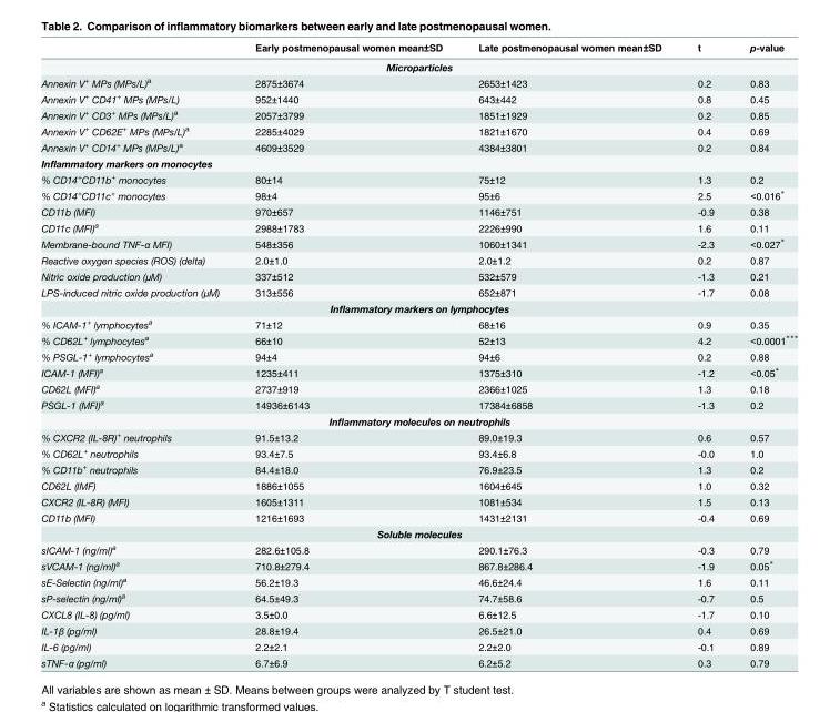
<table><thead><tr><td></td><td>Early postmenopausal women mean±SD</td><td>Late postmenopausal women mean±SD</td><td>t</td><td>p-value</td></tr></thead><tbody><tr><td colspan="5">Microparticles</td></tr><tr><td>Annexin V<sup>+</sup> MPs (MPs/L)<sup>a</sup></td><td>2875±3674</td><td>2653±1423</td><td>0.2</td><td>0.83</td></tr><tr><td>Annexin V<sup>+</sup> CD41<sup>+</sup> MPs (MPs/L)</td><td>952±1440</td><td>643±442</td><td>0.8</td><td>0.45</td></tr><tr><td>Annexin V<sup>+</sup> CD3<sup>+</sup> MPs (MPs/L)<sup>a</sup></td><td>2057±3799</td><td>1851±1929</td><td>0.2</td><td>0.85</td></tr><tr><td>Annexin V<sup>+</sup> CD62E<sup>+</sup> MPs (MPs/L)<sup>a</sup></td><td>2285±4029</td><td>1821±1670</td><td>0.4</td><td>0.69</td></tr><tr><td>Annexin V<sup>+</sup> CD14<sup>+</sup> MPs (MPs/L)<sup>a</sup></td><td>4609±3529</td><td>4384±3801</td><td>0.2</td><td>0.84</td></tr><tr><td colspan="5">Inflammatory markers on monocytes</td></tr><tr><td>% CD14<sup>+</sup>CD11b<sup>+</sup> monocytes</td><td>80±14</td><td>75±12</td><td>1.3</td><td>0.2</td></tr><tr><td>% CD14<sup>+</sup>CD11c<sup>+</sup> monocytes</td><td>98±4</td><td>95±6</td><td>2.5</td><td>&lt;0.016*</td></tr><tr><td>CD11b (MFI)</td><td>970±657</td><td>1146±751</td><td>-0.9</td><td>0.38</td></tr><tr><td>CD11c (MFI)<sup>a</sup></td><td>2988±1783</td><td>2226±990</td><td>1.6</td><td>0.11</td></tr><tr><td>Membrane-bound TNF-α MFI)</td><td>548±356</td><td>1060±1341</td><td>-2.3</td><td>&lt;0.027*</td></tr><tr><td>Reactive oxygen species (ROS) (delta)</td><td>2.0±1.0</td><td>2.0±1.2</td><td>0.2</td><td>0.87</td></tr><tr><td>Nitric oxide production (μM)</td><td>337±512</td><td>532±579</td><td>-1.3</td><td>0.21</td></tr><tr><td>LPS-induced nitric oxide production (μM)</td><td>313±556</td><td>652±871</td><td>-1.7</td><td>0.08</td></tr><tr><td colspan="5">Inflammatory markers on lymphocytes</td></tr><tr><td>% ICAM-1<sup>+</sup> lymphocytes<sup>a</sup></td><td>71±12</td><td>68±16</td><td>0.9</td><td>0.35</td></tr><tr><td>% CD62L<sup>+</sup> lymphocytes<sup>a</sup></td><td>66±10</td><td>52±13</td><td>4.2</td><td>&lt;0.0001***</td></tr><tr><td>% PSGL-1<sup>+</sup> lymphocytes<sup>a</sup></td><td>94±4</td><td>94±6</td><td>0.2</td><td>0.88</td></tr><tr><td>ICAM-1 (MFI)<sup>a</sup></td><td>1235±411</td><td>1375±310</td><td>-1.2</td><td>&lt;0.05*</td></tr><tr><td>CD62L (MFI)<sup>a</sup></td><td>2737±919</td><td>2366±1025</td><td>1.3</td><td>0.18</td></tr><tr><td>PSGL-1 (MFI)<sup>a</sup></td><td>14936±6143</td><td>17384±6858</td><td>-1.3</td><td>0.2</td></tr><tr><td colspan="5">Inflammatory molecules on neutrophils</td></tr><tr><td>% CXCR2 (IL-8R)<sup>+</sup> neutrophils</td><td>91.5±13.2</td><td>89.0±19.3</td><td>0.6</td><td>0.57</td></tr><tr><td>% CD62L<sup>+</sup> neutrophils</td><td>93.4±7.5</td><td>93.4±6.8</td><td>-0.0</td><td>1.0</td></tr><tr><td>% CD11b<sup>+</sup> neutrophils</td><td>84.4±18.0</td><td>76.9±23.5</td><td>1.3</td><td>0.2</td></tr><tr><td>CD62L (IMF)</td><td>1886±1055</td><td>1604±645</td><td>1.0</td><td>0.32</td></tr><tr><td>CXCR2 (IL-8R) (MFI)</td><td>1605±1311</td><td>1081±534</td><td>1.5</td><td>0.13</td></tr><tr><td>CD11b (MFI)</td><td>1216±1693</td><td>1431±2131</td><td>-0.4</td><td>0.69</td></tr><tr><td colspan="5">Soluble molecules</td></tr><tr><td>sICAM-1 (ng/ml)<sup>a</sup></td><td>282.6±105.8</td><td>290.1±76.3</td><td>-0.3</td><td>0.79</td></tr><tr><td>sVCAM-1 (ng/ml)<sup>a</sup></td><td>710.8±279.4</td><td>867.8±286.4</td><td>-1.9</td><td>0.05*</td></tr><tr><td>sE-Selectin (ng/ml)<sup>a</sup></td><td>56.2±19.3</td><td>46.6±24.4</td><td>1.6</td><td>0.11</td></tr><tr><td>sP-selectin (ng/ml)<sup>a</sup></td><td>64.5±49.3</td><td>74.7±58.6</td><td>-0.7</td><td>0.5</td></tr><tr><td>CXCL8 (IL-8) (pg/ml)</td><td>3.5±0.0</td><td>6.6±12.5</td><td>-1.7</td><td>0.10</td></tr><tr><td>IL-1β (pg/ml)</td><td>28.8±19.4</td><td>26.5±21.0</td><td>0.4</td><td>0.69</td></tr><tr><td>IL-6 (pg/ml)</td><td>2.2±2.1</td><td>2.2±2.0</td><td>-0.1</td><td>0.89</td></tr><tr><td>sTNF-α (pg/ml)</td><td>6.7±6.9</td><td>6.2±5.2</td><td>0.3</td><td>0.79</td></tr></tbody></table>